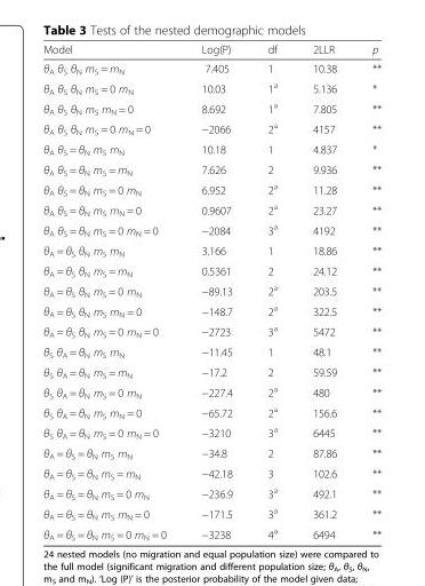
<table><thead><tr><td>Model</td><td>Log(P)</td><td>df</td><td>2LLR</td><td>p</td></tr></thead><tbody><tr><td>θ<sub>A</sub> θ<sub>S</sub> θ<sub>N</sub> m<sub>S</sub> = m<sub>N</sub></td><td>7.405</td><td>1</td><td>10.38</td><td>**</td></tr><tr><td>θ<sub>A</sub> θ<sub>S</sub> θ<sub>N</sub> m<sub>S</sub> = 0 m<sub>N</sub></td><td>10.03</td><td>1<sup>a</sup></td><td>5.136</td><td>*</td></tr><tr><td>θ<sub>A</sub> θ<sub>S</sub> θ<sub>N</sub> m<sub>S</sub> m<sub>N</sub> = 0</td><td>8.692</td><td>1<sup>a</sup></td><td>7.805</td><td>**</td></tr><tr><td>θ<sub>A</sub> θ<sub>S</sub> θ<sub>N</sub> m<sub>S</sub> = 0 m<sub>N</sub> = 0</td><td>−2066</td><td>2<sup>a</sup></td><td>4157</td><td>**</td></tr><tr><td>θ<sub>A</sub> θ<sub>S</sub> = θ<sub>N</sub> m<sub>S</sub> m<sub>N</sub></td><td>10.18</td><td>1</td><td>4.837</td><td>*</td></tr><tr><td>θ<sub>A</sub> θ<sub>S</sub> = θ<sub>N</sub> m<sub>S</sub> = m<sub>N</sub></td><td>7.626</td><td>2</td><td>9.936</td><td>**</td></tr><tr><td>θ<sub>A</sub> θ<sub>S</sub> = θ<sub>N</sub> m<sub>S</sub> = 0 m<sub>N</sub></td><td>6.952</td><td>2<sup>a</sup></td><td>11.28</td><td>**</td></tr><tr><td>θ<sub>A</sub> θ<sub>S</sub> = θ<sub>N</sub> m<sub>S</sub> m<sub>N</sub> = 0</td><td>0.9607</td><td>2<sup>a</sup></td><td>23.27</td><td>**</td></tr><tr><td>θ<sub>A</sub> θ<sub>S</sub> = θ<sub>N</sub> m<sub>S</sub> = 0 m<sub>N</sub> = 0</td><td>−2084</td><td>3<sup>a</sup></td><td>4192</td><td>**</td></tr><tr><td>θ<sub>A</sub> = θ<sub>S</sub> θ<sub>N</sub> m<sub>S</sub> m<sub>N</sub></td><td>3.166</td><td>1</td><td>18.86</td><td>**</td></tr><tr><td>θ<sub>A</sub> = θ<sub>S</sub> θ<sub>N</sub> m<sub>S</sub> = m<sub>N</sub></td><td>0.5361</td><td>2</td><td>24.12</td><td>**</td></tr><tr><td>θ<sub>A</sub> = θ<sub>S</sub> θ<sub>N</sub> m<sub>S</sub> = 0 m<sub>N</sub></td><td>−89.13</td><td>2<sup>a</sup></td><td>203.5</td><td>**</td></tr><tr><td>θ<sub>A</sub> = θ<sub>S</sub> θ<sub>N</sub> m<sub>S</sub> m<sub>N</sub> = 0</td><td>−148.7</td><td>2<sup>a</sup></td><td>322.5</td><td>**</td></tr><tr><td>θ<sub>A</sub> = θ<sub>S</sub> θ<sub>N</sub> m<sub>S</sub> = 0 m<sub>N</sub> = 0</td><td>−2723</td><td>3<sup>a</sup></td><td>5472</td><td>**</td></tr><tr><td>θ<sub>S</sub> θ<sub>A</sub> = θ<sub>N</sub> m<sub>S</sub> m<sub>N</sub></td><td>−11.45</td><td>1</td><td>48.1</td><td>**</td></tr><tr><td>θ<sub>S</sub> θ<sub>A</sub> = θ<sub>N</sub> m<sub>S</sub> = m<sub>N</sub></td><td>−17.2</td><td>2</td><td>59.59</td><td>**</td></tr><tr><td>θ<sub>S</sub> θ<sub>A</sub> = θ<sub>N</sub> m<sub>S</sub> = 0 m<sub>N</sub></td><td>−227.4</td><td>2<sup>a</sup></td><td>480</td><td>**</td></tr><tr><td>θ<sub>S</sub> θ<sub>A</sub> = θ<sub>N</sub> m<sub>S</sub> m<sub>N</sub> = 0</td><td>−65.72</td><td>2<sup>a</sup></td><td>156.6</td><td>**</td></tr><tr><td>θ<sub>S</sub> θ<sub>A</sub> = θ<sub>N</sub> m<sub>S</sub> = 0 m<sub>N</sub> = 0</td><td>−3210</td><td>3<sup>a</sup></td><td>6445</td><td>**</td></tr><tr><td>θ<sub>A</sub> = θ<sub>S</sub> = θ<sub>N</sub> m<sub>S</sub> m<sub>N</sub></td><td>−34.8</td><td>2</td><td>87.86</td><td>**</td></tr><tr><td>θ<sub>A</sub> = θ<sub>S</sub> = θ<sub>N</sub> m<sub>S</sub> = m<sub>N</sub></td><td>−42.18</td><td>3</td><td>102.6</td><td>**</td></tr><tr><td>θ<sub>A</sub> = θ<sub>S</sub> = θ<sub>N</sub> m<sub>S</sub> = 0 m<sub>N</sub></td><td>−236.9</td><td>3<sup>a</sup></td><td>492.1</td><td>**</td></tr><tr><td>θ<sub>A</sub> = θ<sub>S</sub> = θ<sub>N</sub> m<sub>S</sub> m<sub>N</sub> = 0</td><td>−171.5</td><td>3<sup>a</sup></td><td>361.2</td><td>**</td></tr><tr><td>θ<sub>A</sub> = θ<sub>S</sub> = θ<sub>N</sub> m<sub>S</sub> = 0 m<sub>N</sub> = 0</td><td>−3238</td><td>4<sup>a</sup></td><td>6494</td><td>**</td></tr></tbody></table>